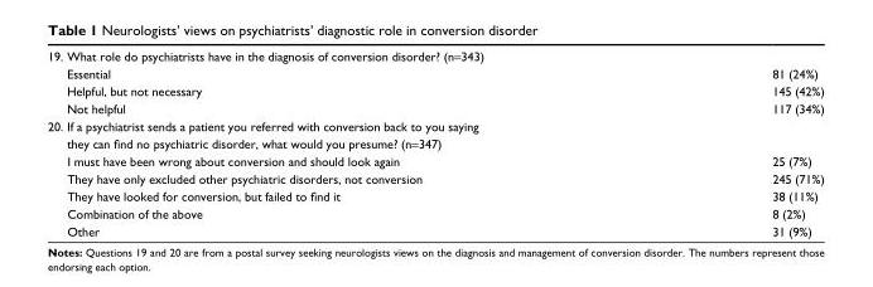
<table><tbody><tr><td colspan="2">19. What role do psychiatrists have in the diagnosis of conversion disorder? (n=343)</td></tr><tr><td>essential</td><td>81 (24%)</td></tr><tr><td>helpful, but not necessary</td><td>145 (42%)</td></tr><tr><td>Not helpful</td><td>117 (34%)</td></tr><tr><td colspan="2">20. if a psychiatrist sends a patient you referred with conversion back to you saying they can find no psychiatric disorder, what would you presume? (n=347)</td></tr><tr><td>i must have been wrong about conversion and should look again</td><td>25 (7%)</td></tr><tr><td>They have only excluded other psychiatric disorders, not conversion</td><td>245 (71%)</td></tr><tr><td>They have looked for conversion, but failed to find it</td><td>38 (11%)</td></tr><tr><td>combination of the above</td><td>8 (2%)</td></tr><tr><td>Other</td><td>31 (9%)</td></tr></tbody></table>